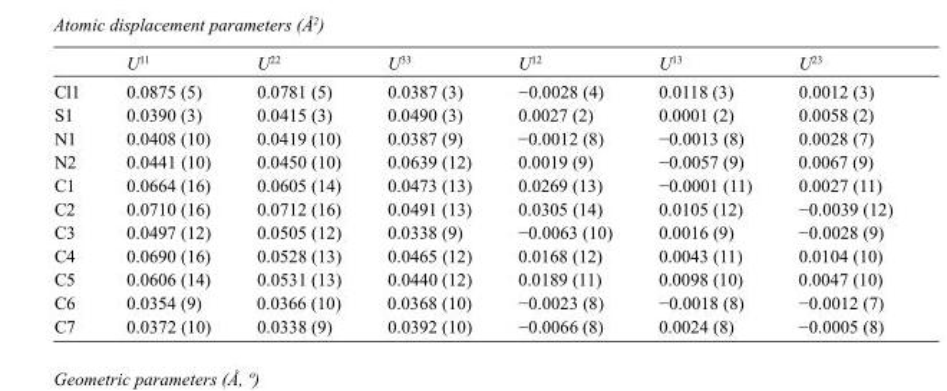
<table><thead><tr><td></td><td>U<sup>11</sup></td><td>U<sup>22</sup></td><td>U<sup>33</sup></td><td>U<sup>12</sup></td><td>U<sup>13</sup></td><td>U<sup>23</sup></td></tr></thead><tbody><tr><td>Cl1</td><td>0.0875 (5)</td><td>0.0781 (5)</td><td>0.0387 (3)</td><td>−0.0028 (4)</td><td>0.0118 (3)</td><td>0.0012 (3)</td></tr><tr><td>S1</td><td>0.0390 (3)</td><td>0.0415 (3)</td><td>0.0490 (3)</td><td>0.0027 (2)</td><td>0.0001 (2)</td><td>0.0058 (2)</td></tr><tr><td>N1</td><td>0.0408 (10)</td><td>0.0419 (10)</td><td>0.0387 (9)</td><td>−0.0012 (8)</td><td>−0.0013 (8)</td><td>0.0028 (7)</td></tr><tr><td>N2</td><td>0.0441 (10)</td><td>0.0450 (10)</td><td>0.0639 (12)</td><td>0.0019 (9)</td><td>−0.0057 (9)</td><td>0.0067 (9)</td></tr><tr><td>C1</td><td>0.0664 (16)</td><td>0.0605 (14)</td><td>0.0473 (13)</td><td>0.0269 (13)</td><td>−0.0001 (11)</td><td>0.0027 (11)</td></tr><tr><td>C2</td><td>0.0710 (16)</td><td>0.0712 (16)</td><td>0.0491 (13)</td><td>0.0305 (14)</td><td>0.0105 (12)</td><td>−0.0039 (12)</td></tr><tr><td>C3</td><td>0.0497 (12)</td><td>0.0505 (12)</td><td>0.0338 (9)</td><td>−0.0063 (10)</td><td>0.0016 (9)</td><td>−0.0028 (9)</td></tr><tr><td>C4</td><td>0.0690 (16)</td><td>0.0528 (13)</td><td>0.0465 (12)</td><td>0.0168 (12)</td><td>0.0043 (11)</td><td>0.0104 (10)</td></tr><tr><td>C5</td><td>0.0606 (14)</td><td>0.0531 (13)</td><td>0.0440 (12)</td><td>0.0189 (11)</td><td>0.0098 (10)</td><td>0.0047 (10)</td></tr><tr><td>C6</td><td>0.0354 (9)</td><td>0.0366 (10)</td><td>0.0368 (10)</td><td>−0.0023 (8)</td><td>−0.0018 (8)</td><td>−0.0012 (7)</td></tr><tr><td>C7</td><td>0.0372 (10)</td><td>0.0338 (9)</td><td>0.0392 (10)</td><td>−0.0066 (8)</td><td>0.0024 (8)</td><td>−0.0005 (8)</td></tr></tbody></table>